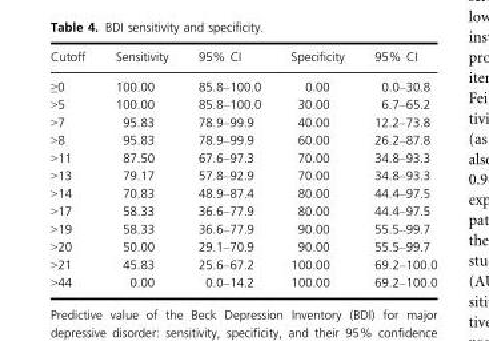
<table><thead><tr><td>Cutoff</td><td>Sensitivity</td><td>95% CI</td><td>Specificity</td><td>95% CI</td></tr></thead><tbody><tr><td>≥0</td><td>100.00</td><td>85.8–100.0</td><td>0.00</td><td>0.0–30.8</td></tr><tr><td>&gt;5</td><td>100.00</td><td>85.8–100.0</td><td>30.00</td><td>6.7–65.2</td></tr><tr><td>&gt;7</td><td>95.83</td><td>78.9–99.9</td><td>40.00</td><td>12.2–73.8</td></tr><tr><td>&gt;8</td><td>95.83</td><td>78.9–99.9</td><td>60.00</td><td>26.2–87.8</td></tr><tr><td>&gt;11</td><td>87.50</td><td>67.6–97.3</td><td>70.00</td><td>34.8–93.3</td></tr><tr><td>&gt;13</td><td>79.17</td><td>57.8–92.9</td><td>70.00</td><td>34.8–93.3</td></tr><tr><td>&gt;14</td><td>70.83</td><td>48.9–87.4</td><td>80.00</td><td>44.4–97.5</td></tr><tr><td>&gt;17</td><td>58.33</td><td>36.6–77.9</td><td>80.00</td><td>44.4–97.5</td></tr><tr><td>&gt;19</td><td>58.33</td><td>36.6–77.9</td><td>90.00</td><td>55.5–99.7</td></tr><tr><td>&gt;20</td><td>50.00</td><td>29.1–70.9</td><td>90.00</td><td>55.5–99.7</td></tr><tr><td>&gt;21</td><td>45.83</td><td>25.6–67.2</td><td>100.00</td><td>69.2–100.0</td></tr><tr><td>&gt;44</td><td>0.00</td><td>0.0–14.2</td><td>100.00</td><td>69.2–100.0</td></tr></tbody></table>